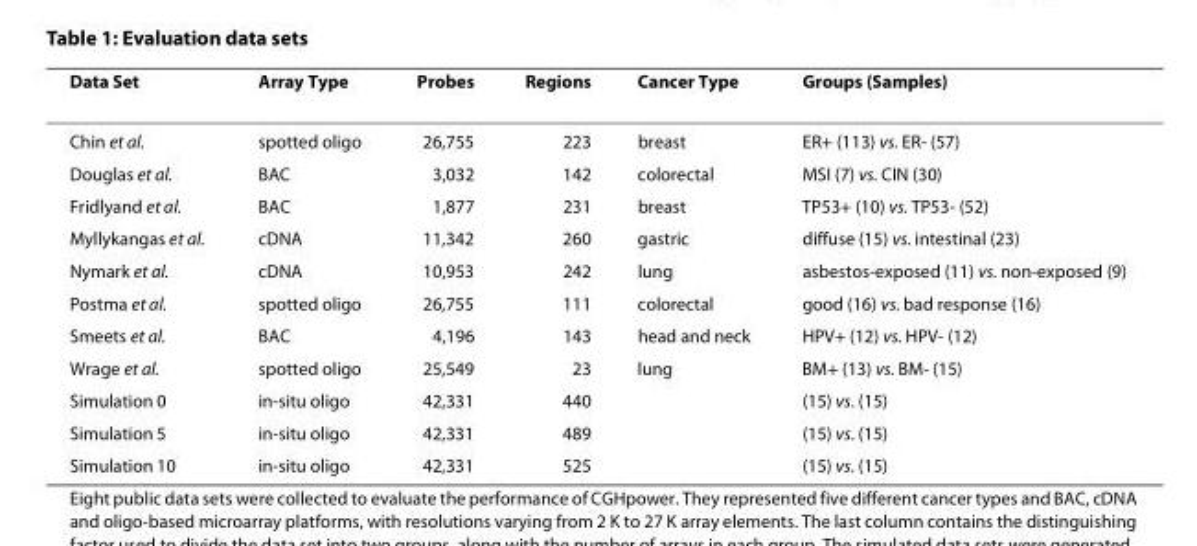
<table><thead><tr><td>Data Set</td><td>Array Type</td><td>Probes</td><td>Regions</td><td>Cancer Type</td><td>Groups (Samples)</td></tr></thead><tbody><tr><td>Chin et al.</td><td>spotted oligo</td><td>26,755</td><td>223</td><td>breast</td><td>ER+ (113) vs. ER- (57)</td></tr><tr><td>Douglas et al.</td><td>BAC</td><td>3,032</td><td>142</td><td>colorectal</td><td>MSI (7) vs. CIN (30)</td></tr><tr><td>Fridlyand et al.</td><td>BAC</td><td>1,877</td><td>231</td><td>breast</td><td>TP53+ (10) vs. TP53- (52)</td></tr><tr><td>Myllykangas et al.</td><td>cDNA</td><td>11,342</td><td>260</td><td>gastric</td><td>diffuse (15) vs. intestinal (23)</td></tr><tr><td>Nymark et al.</td><td>cDNA</td><td>10,953</td><td>242</td><td>lung</td><td>asbestos-exposed (11) vs. non-exposed (9)</td></tr><tr><td>Postma et al.</td><td>spotted oligo</td><td>26,755</td><td>111</td><td>colorectal</td><td>good (16) vs. bad response (16)</td></tr><tr><td>Smeets et al.</td><td>BAC</td><td>4,196</td><td>143</td><td>head and neck</td><td>HPV+ (12) vs. HPV- (12)</td></tr><tr><td>Wrage et al.</td><td>spotted oligo</td><td>25,549</td><td>23</td><td>lung</td><td>BM+ (13) vs. BM- (15)</td></tr><tr><td>Simulation 0</td><td>in-situ oligo</td><td>42,331</td><td>440</td><td></td><td>(15) vs. (15)</td></tr><tr><td>Simulation 5</td><td>in-situ oligo</td><td>42,331</td><td>489</td><td></td><td>(15) vs. (15)</td></tr><tr><td>Simulation 10</td><td>in-situ oligo</td><td>42,331</td><td>525</td><td></td><td>(15) vs. (15)</td></tr></tbody></table>